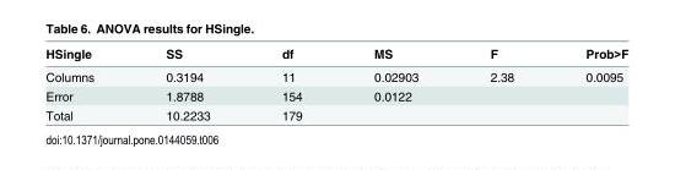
<table><thead><tr><td>HSingle</td><td>SS</td><td>df</td><td>MS</td><td>F</td><td>Prob&gt;F</td></tr></thead><tbody><tr><td>Columns</td><td>0.3194</td><td>11</td><td>0.02903</td><td>2.38</td><td>0.0095</td></tr><tr><td>Error</td><td>1.8788</td><td>154</td><td>0.0122</td><td></td><td></td></tr><tr><td>Total</td><td>10.2233</td><td>179</td><td></td><td></td><td></td></tr></tbody></table>